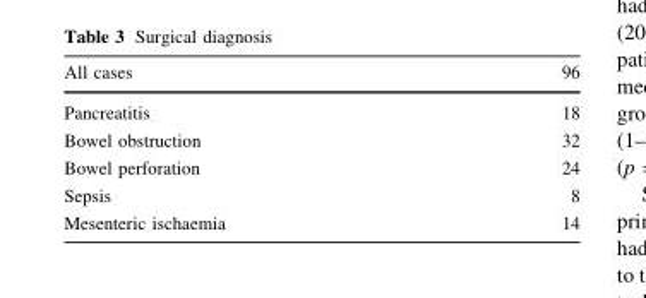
<table><thead><tr><td>All cases</td><td>96</td></tr></thead><tbody><tr><td>Pancreatitis</td><td>18</td></tr><tr><td>Bowel obstruction</td><td>32</td></tr><tr><td>Bowel perforation</td><td>24</td></tr><tr><td>Sepsis</td><td>8</td></tr><tr><td>Mesenteric ischaemia</td><td>14</td></tr></tbody></table>